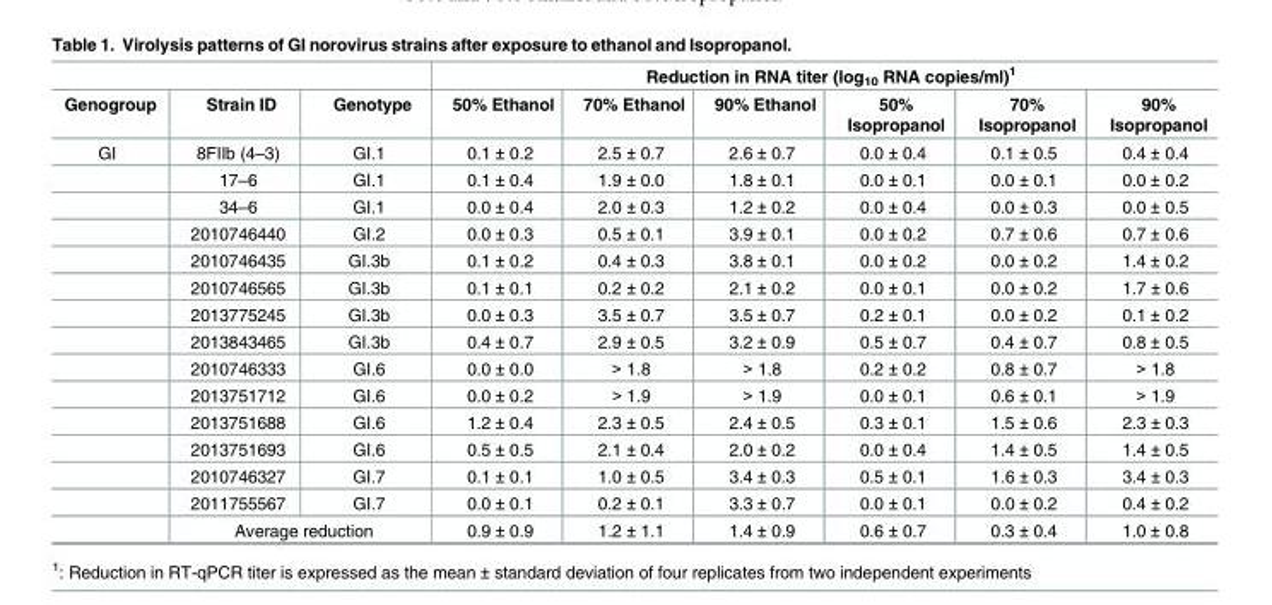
<table><thead><tr><td rowspan="2">Genogroup</td><td rowspan="2">Strain ID</td><td rowspan="2">Genotype</td><td colspan="6">Reduction in RNA titer (log<sub>10</sub> RNA copies/ml)<sup>1</sup></td></tr><tr><td>50% Ethanol</td><td>70% Ethanol</td><td>90% Ethanol</td><td>50% Isopropanol</td><td>70% Isopropanol</td><td>90% Isopropanol</td></tr></thead><tbody><tr><td rowspan="15">GI</td><td>8FIIb (4–3)</td><td>GI.1</td><td>0.1 ± 0.2</td><td>2.5 ± 0.7</td><td>2.6 ± 0.7</td><td>0.0 ± 0.4</td><td>0.1 ± 0.5</td><td>0.4 ± 0.4</td></tr><tr><td>17–6</td><td>GI.1</td><td>0.1 ± 0.4</td><td>1.9 ± 0.0</td><td>1.8 ± 0.1</td><td>0.0 ± 0.1</td><td>0.0 ± 0.1</td><td>0.0 ± 0.2</td></tr><tr><td>34–6</td><td>GI.1</td><td>0.0 ± 0.4</td><td>2.0 ± 0.3</td><td>1.2 ± 0.2</td><td>0.0 ± 0.4</td><td>0.0 ± 0.3</td><td>0.0 ± 0.5</td></tr><tr><td>2010746440</td><td>GI.2</td><td>0.0 ± 0.3</td><td>0.5 ± 0.1</td><td>3.9 ± 0.1</td><td>0.0 ± 0.2</td><td>0.7 ± 0.6</td><td>0.7 ± 0.6</td></tr><tr><td>2010746435</td><td>GI.3b</td><td>0.1 ± 0.2</td><td>0.4 ± 0.3</td><td>3.8 ± 0.1</td><td>0.0 ± 0.2</td><td>0.0 ± 0.2</td><td>1.4 ± 0.2</td></tr><tr><td>2010746565</td><td>GI.3b</td><td>0.1 ± 0.1</td><td>0.2 ± 0.2</td><td>2.1 ± 0.2</td><td>0.0 ± 0.1</td><td>0.0 ± 0.2</td><td>1.7 ± 0.6</td></tr><tr><td>2013775245</td><td>GI.3b</td><td>0.0 ± 0.3</td><td>3.5 ± 0.7</td><td>3.5 ± 0.7</td><td>0.2 ± 0.1</td><td>0.0 ± 0.2</td><td>0.1 ± 0.2</td></tr><tr><td>2013843465</td><td>GI.3b</td><td>0.4 ± 0.7</td><td>2.9 ± 0.5</td><td>3.2 ± 0.9</td><td>0.5 ± 0.7</td><td>0.4 ± 0.7</td><td>0.8 ± 0.5</td></tr><tr><td>2010746333</td><td>GI.6</td><td>0.0 ± 0.0</td><td>&gt; 1.8</td><td>&gt; 1.8</td><td>0.2 ± 0.2</td><td>0.8 ± 0.7</td><td>&gt; 1.8</td></tr><tr><td>2013751712</td><td>GI.6</td><td>0.0 ± 0.2</td><td>&gt; 1.9</td><td>&gt; 1.9</td><td>0.0 ± 0.1</td><td>0.6 ± 0.1</td><td>&gt; 1.9</td></tr><tr><td>2013751688</td><td>GI.6</td><td>1.2 ± 0.4</td><td>2.3 ± 0.5</td><td>2.4 ± 0.5</td><td>0.3 ± 0.1</td><td>1.5 ± 0.6</td><td>2.3 ± 0.3</td></tr><tr><td>2013751693</td><td>GI.6</td><td>0.5 ± 0.5</td><td>2.1 ± 0.4</td><td>2.0 ± 0.2</td><td>0.0 ± 0.4</td><td>1.4 ± 0.5</td><td>1.4 ± 0.5</td></tr><tr><td>2010746327</td><td>GI.7</td><td>0.1 ± 0.1</td><td>1.0 ± 0.5</td><td>3.4 ± 0.3</td><td>0.5 ± 0.1</td><td>1.6 ± 0.3</td><td>3.4 ± 0.3</td></tr><tr><td>2011755567</td><td>GI.7</td><td>0.0 ± 0.1</td><td>0.2 ± 0.1</td><td>3.3 ± 0.7</td><td>0.0 ± 0.1</td><td>0.0 ± 0.2</td><td>0.4 ± 0.2</td></tr><tr><td colspan="2">Average reduction</td><td>0.9 ± 0.9</td><td>1.2 ± 1.1</td><td>1.4 ± 0.9</td><td>0.6 ± 0.7</td><td>0.3 ± 0.4</td><td>1.0 ± 0.8</td></tr></tbody></table>